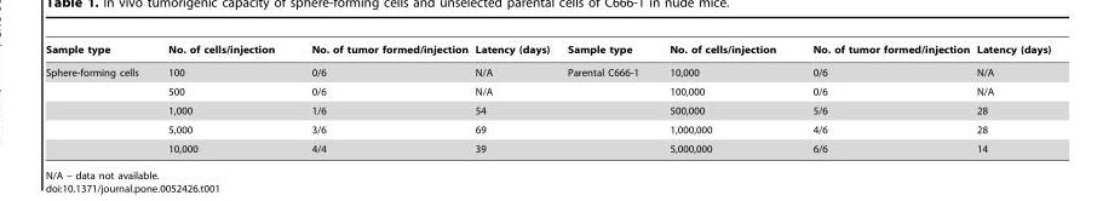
<table><thead><tr><td>Sample type</td><td>No. of cells/injection</td><td>No. of tumor formed/injection</td><td>Latency (days)</td><td>Sample type</td><td>No. of cells/injection</td><td>No. of tumor formed/injection</td><td>Latency (days)</td></tr></thead><tbody><tr><td rowspan="5">Sphere-forming cells</td><td>100</td><td>0/6</td><td>N/A</td><td>Parental C666-1</td><td>10,000</td><td>0/6</td><td>N/A</td></tr><tr><td>500</td><td>0/6</td><td>N/A</td><td></td><td>100,000</td><td>0/6</td><td>N/A</td></tr><tr><td>1,000</td><td>1/6</td><td>54</td><td></td><td>500,000</td><td>5/6</td><td>28</td></tr><tr><td>5,000</td><td>3/6</td><td>69</td><td></td><td>1,000,000</td><td>4/6</td><td>28</td></tr><tr><td>10,000</td><td>4/4</td><td>39</td><td></td><td>5,000,000</td><td>6/6</td><td>14</td></tr></tbody></table>